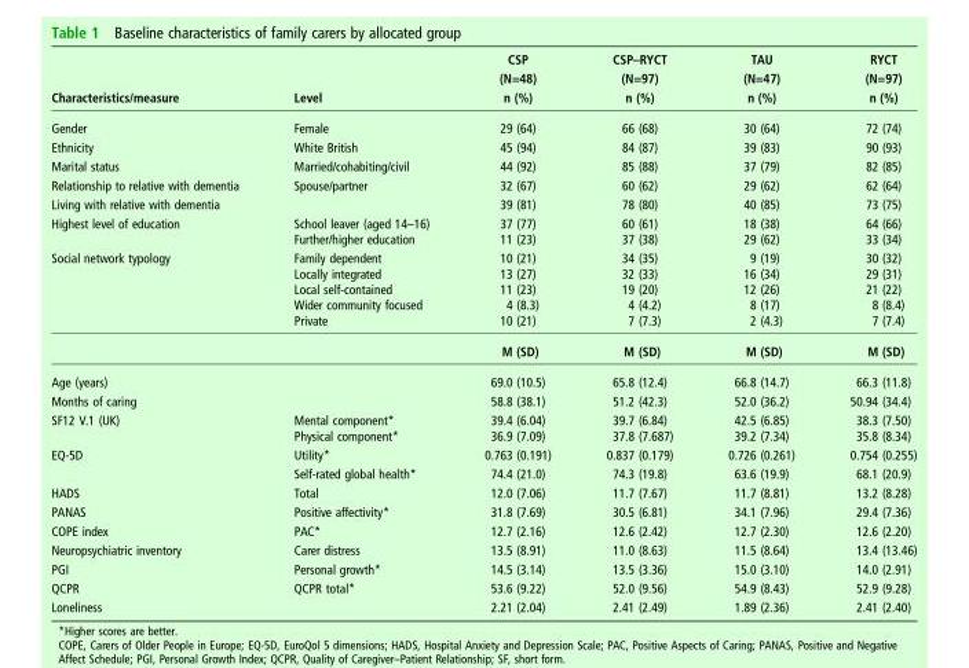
<table><thead><tr><td rowspan="3">Characteristics/measure</td><td rowspan="3">Level</td><td rowspan="3">CSP (N=48) n (%)</td><td rowspan="3">CSP–RYCT (N=97) n (%)</td><td rowspan="3">TAU (N=47) n (%)</td><td rowspan="3">RYCT (N=97) n (%)</td></tr><tr></tr><tr></tr></thead><tbody><tr><td>Gender</td><td>Female</td><td>29 (64)</td><td>66 (68)</td><td>30 (64)</td><td>72 (74)</td></tr><tr><td>Ethnicity</td><td>White British</td><td>45 (94)</td><td>84 (87)</td><td>39 (83)</td><td>90 (93)</td></tr><tr><td>Marital status</td><td>Married/cohabiting/civil</td><td>44 (92)</td><td>85 (88)</td><td>37 (79)</td><td>82 (85)</td></tr><tr><td>Relationship to relative with dementia</td><td>Spouse/partner</td><td>32 (67)</td><td>60 (62)</td><td>29 (62)</td><td>62 (64)</td></tr><tr><td>Living with relative with dementia</td><td></td><td>39 (81)</td><td>78 (80)</td><td>40 (85)</td><td>73 (75)</td></tr><tr><td rowspan="2">Highest level of education</td><td>School leaver (aged 14–16)</td><td>37 (77)</td><td>60 (61)</td><td>18 (38)</td><td>64 (66)</td></tr><tr><td>Further/higher education</td><td>11 (23)</td><td>37 (38)</td><td>29 (62)</td><td>33 (34)</td></tr><tr><td rowspan="6">Social network typology</td><td>Family dependent</td><td>10 (21)</td><td>34 (35)</td><td>9 (19)</td><td>30 (32)</td></tr><tr><td>Locally integrated</td><td>13 (27)</td><td>32 (33)</td><td>16 (34)</td><td>29 (31)</td></tr><tr><td>Local self-contained</td><td>11 (23)</td><td>19 (20)</td><td>12 (26)</td><td>21 (22)</td></tr><tr><td>Wider community focused</td><td>4 (8.3)</td><td>4 (4.2)</td><td>8 (17)</td><td>8 (8.4)</td></tr><tr><td>Private</td><td>10 (21)</td><td>7 (7.3)</td><td>2 (4.3)</td><td>7 (7.4)</td></tr><tr><td></td><td>M (SD)</td><td>M (SD)</td><td>M (SD)</td><td>M (SD)</td></tr><tr><td>Age (years)</td><td></td><td>69.0 (10.5)</td><td>65.8 (12.4)</td><td>66.8 (14.7)</td><td>66.3 (11.8)</td></tr><tr><td>Months of caring</td><td></td><td>58.8 (38.1)</td><td>51.2 (42.3)</td><td>52.0 (36.2)</td><td>50.94 (34.4)</td></tr><tr><td rowspan="2">SF12 V.1 (UK)</td><td>Mental component*</td><td>39.4 (6.04)</td><td>39.7 (6.84)</td><td>42.5 (6.85)</td><td>38.3 (7.50)</td></tr><tr><td>Physical component*</td><td>36.9 (7.09)</td><td>37.8 (7.687)</td><td>39.2 (7.34)</td><td>35.8 (8.34)</td></tr><tr><td rowspan="2">EQ-5D</td><td>Utility*</td><td>0.763 (0.191)</td><td>0.837 (0.179)</td><td>0.726 (0.261)</td><td>0.754 (0.255)</td></tr><tr><td>Self-rated global health*</td><td>74.4 (21.0)</td><td>74.3 (19.8)</td><td>63.6 (19.9)</td><td>68.1 (20.9)</td></tr><tr><td>HADS</td><td>Total</td><td>12.0 (7.06)</td><td>11.7 (7.67)</td><td>11.7 (8.81)</td><td>13.2 (8.28)</td></tr><tr><td>PANAS</td><td>Positive affectivity*</td><td>31.8 (7.69)</td><td>30.5 (6.81)</td><td>34.1 (7.96)</td><td>29.4 (7.36)</td></tr><tr><td>COPE index</td><td>PAC*</td><td>12.7 (2.16)</td><td>12.6 (2.42)</td><td>12.7 (2.30)</td><td>12.6 (2.20)</td></tr><tr><td>Neuropsychiatric inventory</td><td>Carer distress</td><td>13.5 (8.91)</td><td>11.0 (8.63)</td><td>11.5 (8.64)</td><td>13.4 (13.46)</td></tr><tr><td>PGI</td><td>Personal growth*</td><td>14.5 (3.14)</td><td>13.5 (3.36)</td><td>15.0 (3.10)</td><td>14.0 (2.91)</td></tr><tr><td>QCPR</td><td>QCPR total*</td><td>53.6 (9.22)</td><td>52.0 (9.56)</td><td>54.9 (8.43)</td><td>52.9 (9.28)</td></tr><tr><td>Loneliness</td><td></td><td>2.21 (2.04)</td><td>2.41 (2.49)</td><td>1.89 (2.36)</td><td>2.41 (2.40)</td></tr></tbody></table>